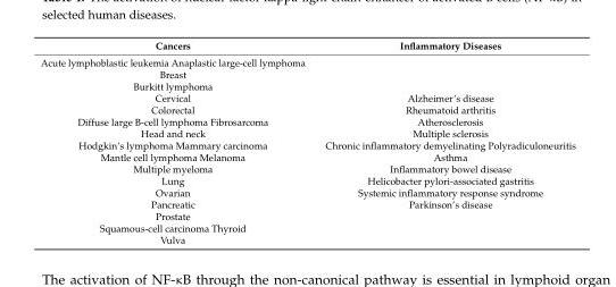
<table><thead><tr><td>Cancers</td><td>Inflammatory Diseases</td></tr></thead><tbody><tr><td>Acute lymphoblastic leukemia Anaplastic large-cell lymphoma Breast Burkitt lymphoma Cervical Colorectal Diffuse large B-cell lymphoma Fibrosarcoma Head and neck Hodgkin’s lymphoma Mammary carcinoma Mantle cell lymphoma Melanoma Multiple myeloma Lung Ovarian Pancreatic Prostate Squamous-cell carcinoma Thyroid Vulva</td><td>Alzheimer’s disease Rheumatoid arthritis Atherosclerosis Multiple sclerosis Chronic inflammatory demyelinating Polyradiculoneuritis Asthma Inflammatory bowel disease Helicobacter pylori-associated gastritis Systemic inflammatory response syndrome Parkinson’s disease</td></tr></tbody></table>